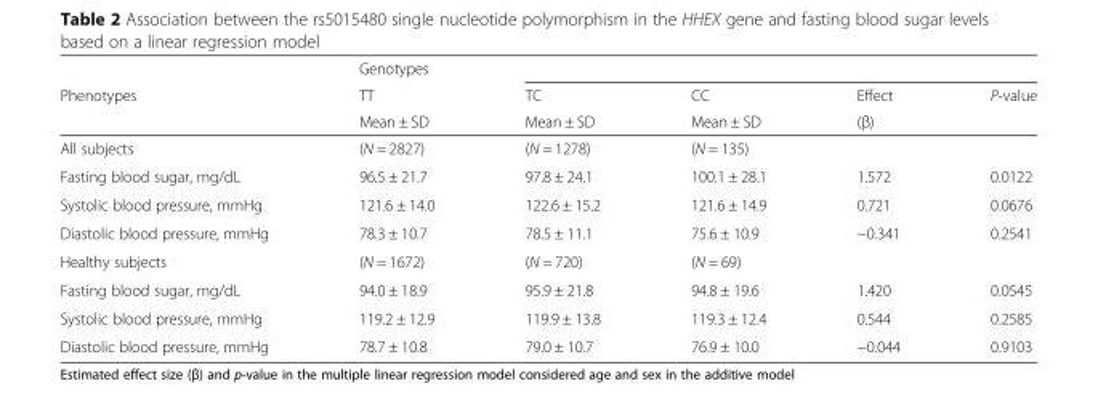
<table><thead><tr><td rowspan="3">Phenotypes</td><td rowspan="3">Genotypes TT Mean ± SD</td><td rowspan="3">TC Mean ± SD</td><td rowspan="3">CC Mean ± SD</td><td rowspan="3">Effect (β)</td><td rowspan="3">P-value</td></tr><tr></tr><tr></tr></thead><tbody><tr><td>All subjects</td><td>(N = 2827)</td><td>(N = 1278)</td><td>(N = 135)</td><td></td><td></td></tr><tr><td>Fasting blood sugar, mg/dL</td><td>96.5 ± 21.7</td><td>97.8 ± 24.1</td><td>100.1 ± 28.1</td><td>1.572</td><td>0.0122</td></tr><tr><td>Systolic blood pressure, mmHg</td><td>121.6 ± 14.0</td><td>122.6 ± 15.2</td><td>121.6 ± 14.9</td><td>0.721</td><td>0.0676</td></tr><tr><td>Diastolic blood pressure, mmHg</td><td>78.3 ± 10.7</td><td>78.5 ± 11.1</td><td>75.6 ± 10.9</td><td>−0.341</td><td>0.2541</td></tr><tr><td>Healthy subjects</td><td>(N = 1672)</td><td>(N = 720)</td><td>(N = 69)</td><td></td><td></td></tr><tr><td>Fasting blood sugar, mg/dL</td><td>94.0 ± 18.9</td><td>95.9 ± 21.8</td><td>94.8 ± 19.6</td><td>1.420</td><td>0.0545</td></tr><tr><td>Systolic blood pressure, mmHg</td><td>119.2 ± 12.9</td><td>119.9 ± 13.8</td><td>119.3 ± 12.4</td><td>0.544</td><td>0.2585</td></tr><tr><td>Diastolic blood pressure, mmHg</td><td>78.7 ± 10.8</td><td>79.0 ± 10.7</td><td>76.9 ± 10.0</td><td>−0.044</td><td>0.9103</td></tr></tbody></table>